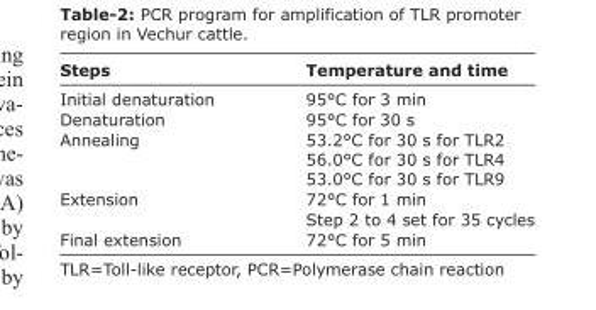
<table><thead><tr><td>Steps</td><td>Temperature and time</td></tr></thead><tbody><tr><td>Initial denaturation</td><td>95°C for 3 min</td></tr><tr><td>Denaturation</td><td>95°C for 30 s</td></tr><tr><td>Annealing</td><td>53.2°C for 30 s for TLR2 56.0°C for 30 s for TLR4 53.0°C for 30 s for TLR9</td></tr><tr><td>Extension</td><td>72°C for 1 min Step 2 to 4 set for 35 cycles</td></tr><tr><td>Final extension</td><td>72°C for 5 min</td></tr></tbody></table>